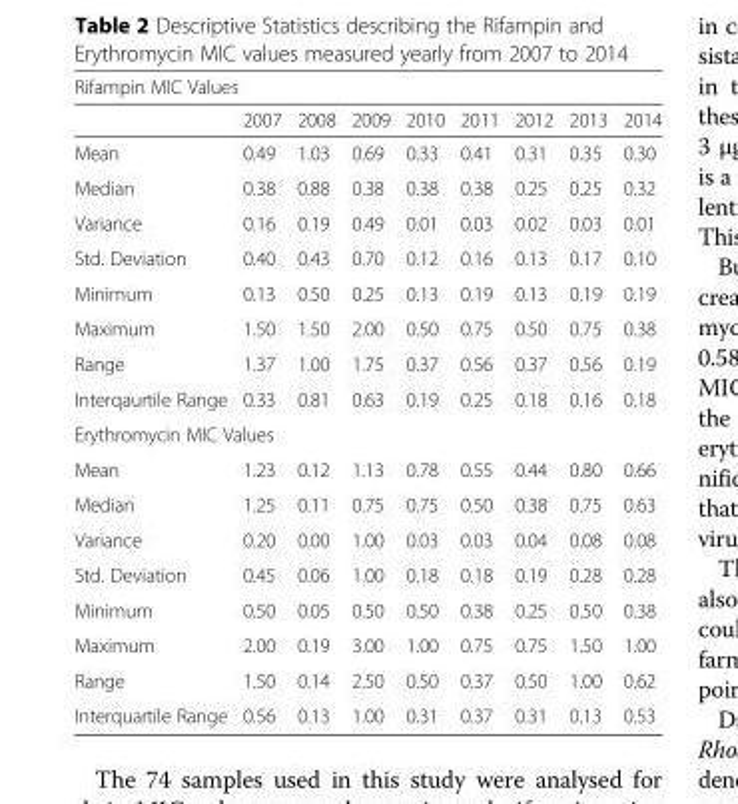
<table><thead><tr><td colspan="9">Rifampin MIC Values</td></tr><tr><td></td><td>2007</td><td>2008</td><td>2009</td><td>2010</td><td>2011</td><td>2012</td><td>2013</td><td>2014</td></tr></thead><tbody><tr><td>Mean</td><td>0.49</td><td>1.03</td><td>0.69</td><td>0.33</td><td>0.41</td><td>0.31</td><td>0.35</td><td>0.30</td></tr><tr><td>Median</td><td>0.38</td><td>0.88</td><td>0.38</td><td>0.38</td><td>0.38</td><td>0.25</td><td>0.25</td><td>0.32</td></tr><tr><td>Variance</td><td>0.16</td><td>0.19</td><td>0.49</td><td>0.01</td><td>0.03</td><td>0.02</td><td>0.03</td><td>0.01</td></tr><tr><td>Std. Deviation</td><td>0.40</td><td>0.43</td><td>0.70</td><td>0.12</td><td>0.16</td><td>0.13</td><td>0.17</td><td>0.10</td></tr><tr><td>Minimum</td><td>0.13</td><td>0.50</td><td>0.25</td><td>0.13</td><td>0.19</td><td>0.13</td><td>0.19</td><td>0.19</td></tr><tr><td>Maximum</td><td>1.50</td><td>1.50</td><td>2.00</td><td>0.50</td><td>0.75</td><td>0.50</td><td>0.75</td><td>0.38</td></tr><tr><td>Range</td><td>1.37</td><td>1.00</td><td>1.75</td><td>0.37</td><td>0.56</td><td>0.37</td><td>0.56</td><td>0.19</td></tr><tr><td>Interqaurtile Range</td><td>0.33</td><td>0.81</td><td>0.63</td><td>0.19</td><td>0.25</td><td>0.18</td><td>0.16</td><td>0.18</td></tr><tr><td colspan="9">Erythromycin MIC Values</td></tr><tr><td>Mean</td><td>1.23</td><td>0.12</td><td>1.13</td><td>0.78</td><td>0.55</td><td>0.44</td><td>0.80</td><td>0.66</td></tr><tr><td>Median</td><td>1.25</td><td>0.11</td><td>0.75</td><td>0.75</td><td>0.50</td><td>0.38</td><td>0.75</td><td>0.63</td></tr><tr><td>Variance</td><td>0.20</td><td>0.00</td><td>1.00</td><td>0.03</td><td>0.03</td><td>0.04</td><td>0.08</td><td>0.08</td></tr><tr><td>Std. Deviation</td><td>0.45</td><td>0.06</td><td>1.00</td><td>0.18</td><td>0.18</td><td>0.19</td><td>0.28</td><td>0.28</td></tr><tr><td>Minimum</td><td>0.50</td><td>0.05</td><td>0.50</td><td>0.50</td><td>0.38</td><td>0.25</td><td>0.50</td><td>0.38</td></tr><tr><td>Maximum</td><td>2.00</td><td>0.19</td><td>3.00</td><td>1.00</td><td>0.75</td><td>0.75</td><td>1.50</td><td>1.00</td></tr><tr><td>Range</td><td>1.50</td><td>0.14</td><td>2.50</td><td>0.50</td><td>0.37</td><td>0.50</td><td>1.00</td><td>0.62</td></tr><tr><td>Interquartile Range</td><td>0.56</td><td>0.13</td><td>1.00</td><td>0.31</td><td>0.37</td><td>0.31</td><td>0.13</td><td>0.53</td></tr></tbody></table>